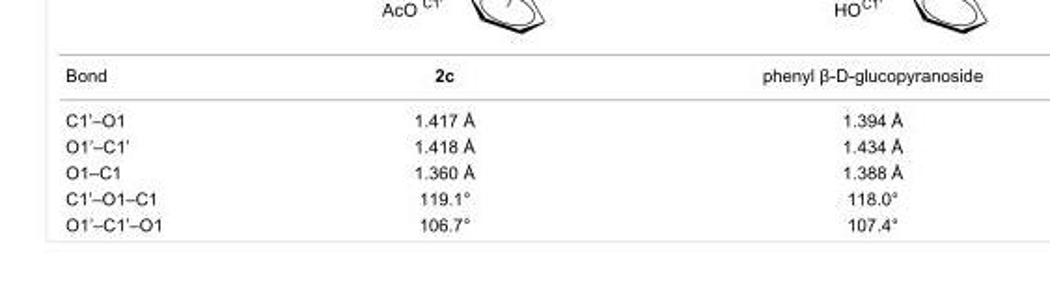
<table><tbody><tr><td>Bond</td><td>2c</td><td>phenyl β-D-glucopyranoside</td></tr><tr><td>C1’–O1</td><td>1.417 Å</td><td>1.394 Å</td></tr><tr><td>O1’–C1’</td><td>1.418 Å</td><td>1.434 Å</td></tr><tr><td>O1–C1</td><td>1.360 Å</td><td>1.388 Å</td></tr><tr><td>C1’–O1–C1</td><td>119.1°</td><td>118.0°</td></tr><tr><td>O1’–C1’–O1</td><td>106.7°</td><td>107.4°</td></tr></tbody></table>